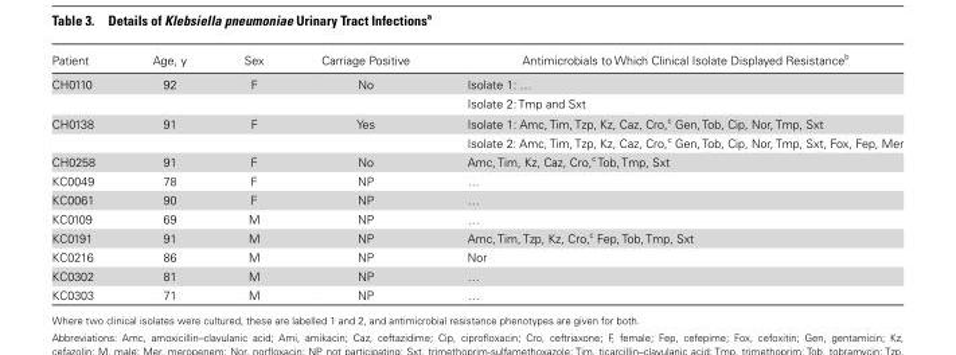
<table><thead><tr><td>Patient</td><td>Age, y</td><td>Sex</td><td>Carriage Positive</td><td>Antimicrobials to Which Clinical Isolate Displayed Resistance<sup>b</sup></td></tr></thead><tbody><tr><td rowspan="2">CH0110</td><td>92</td><td>F</td><td>No</td><td>Isolate 1: …</td></tr><tr><td></td><td></td><td></td><td>Isolate 2: Tmp and Sxt</td></tr><tr><td rowspan="2">CH0138</td><td>91</td><td>F</td><td>Yes</td><td>Isolate 1: Amc, Tim, Tzp, Kz, Caz, Cro,<sup>c</sup> Gen, Tob, Cip, Nor, Tmp, Sxt</td></tr><tr><td></td><td></td><td></td><td>Isolate 2: Amc, Tim, Tzp, Kz, Caz, Cro,<sup>c</sup> Gen, Tob, Cip, Nor, Tmp, Sxt, Fox, Fep, Mer</td></tr><tr><td>CH0258</td><td>91</td><td>F</td><td>No</td><td>Amc, Tim, Kz, Caz, Cro,<sup>c</sup> Tob, Tmp, Sxt</td></tr><tr><td>KC0049</td><td>78</td><td>F</td><td>NP</td><td>…</td></tr><tr><td>KC0061</td><td>90</td><td>F</td><td>NP</td><td>…</td></tr><tr><td>KC0109</td><td>69</td><td>M</td><td>NP</td><td>…</td></tr><tr><td>KC0191</td><td>91</td><td>M</td><td>NP</td><td>Amc, Tim, Tzp, Kz, Cro,<sup>c</sup> Fep, Tob, Tmp, Sxt</td></tr><tr><td>KC0216</td><td>86</td><td>M</td><td>NP</td><td>Nor</td></tr><tr><td>KC0302</td><td>81</td><td>M</td><td>NP</td><td>…</td></tr><tr><td>KC0303</td><td>71</td><td>M</td><td>NP</td><td>…</td></tr></tbody></table>